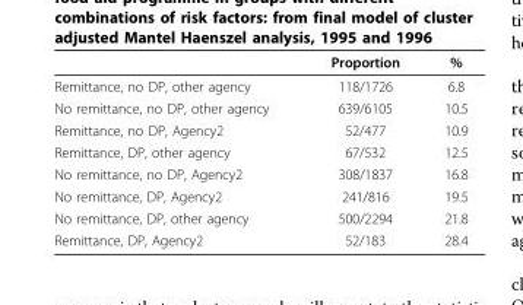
<table><thead><tr><td></td><td>Proportion</td><td>%</td></tr></thead><tbody><tr><td>Remittance, no DP, other agency</td><td>118/1726</td><td>6.8</td></tr><tr><td>No remittance, no DP, other agency</td><td>639/6105</td><td>10.5</td></tr><tr><td>Remittance, no DP, Agency2</td><td>52/477</td><td>10.9</td></tr><tr><td>Remittance, DP, other agency</td><td>67/532</td><td>12.5</td></tr><tr><td>No remittance, no DP, Agency2</td><td>308/1837</td><td>16.8</td></tr><tr><td>No remittance, DP, Agency2</td><td>241/816</td><td>19.5</td></tr><tr><td>No remittance, DP, other agency</td><td>500/2294</td><td>21.8</td></tr><tr><td>Remittance, DP, Agency2</td><td>52/183</td><td>28.4</td></tr></tbody></table>